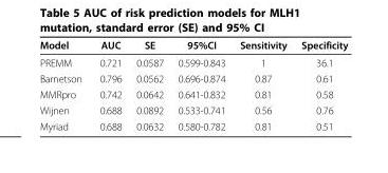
<table><thead><tr><td>Model</td><td>AUC</td><td>SE</td><td>95%CI</td><td>Sensitivity</td><td>Specificity</td></tr></thead><tbody><tr><td>PREMM</td><td>0.721</td><td>0.0587</td><td>0.599-0.843</td><td>1</td><td>36.1</td></tr><tr><td>Barnetson</td><td>0.796</td><td>0.0562</td><td>0.696-0.874</td><td>0.87</td><td>0.61</td></tr><tr><td>MMRpro</td><td>0.742</td><td>0.0642</td><td>0.641-0.832</td><td>0.81</td><td>0.58</td></tr><tr><td>Wijnen</td><td>0.688</td><td>0.0892</td><td>0.533-0.741</td><td>0.56</td><td>0.76</td></tr><tr><td>Myriad</td><td>0.688</td><td>0.0632</td><td>0.580-0.782</td><td>0.81</td><td>0.51</td></tr></tbody></table>